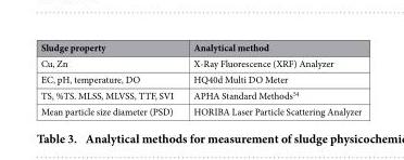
<table><thead><tr><td>Sludge property</td><td>Analytical method</td></tr></thead><tbody><tr><td>Cu, Zn</td><td>X-Ray Fluorescence (XRF) Analyzer</td></tr><tr><td>EC, pH, temperature, DO</td><td>HQ40d Multi DO Meter</td></tr><tr><td>TS, %TS. MLSS, MLVSS, TTF, SVI</td><td>APHA Standard Methods<sup>54</sup></td></tr><tr><td>Mean particle size diameter (PSD)</td><td>HORIBA Laser Particle Scattering Analyzer</td></tr></tbody></table>